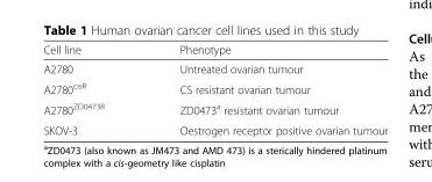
<table><thead><tr><td>Cell line</td><td>Phenotype</td></tr></thead><tbody><tr><td>A2780</td><td>Untreated ovarian tumour</td></tr><tr><td>A2780<sup>cisR</sup></td><td>CS resistant ovarian tumour</td></tr><tr><td>A2780<sup>ZD0473R</sup></td><td>ZD0473<sup>a</sup> resistant ovarian tumour</td></tr><tr><td>SKOV-3</td><td>Oestrogen receptor positive ovarian tumour</td></tr></tbody></table>